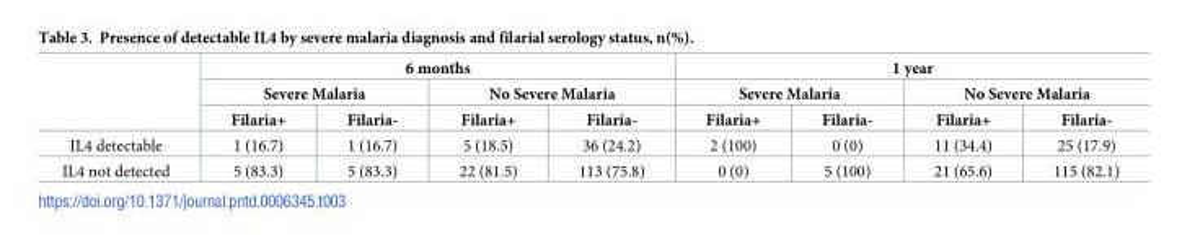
<table><thead><tr><td rowspan="3"></td><td colspan="4">6 months</td><td colspan="4">1 year</td></tr><tr><td colspan="2">Severe Malaria</td><td colspan="2">No Severe Malaria</td><td colspan="2">Severe Malaria</td><td colspan="2">No Severe Malaria</td></tr><tr><td>Filaria+</td><td>Filaria-</td><td>Filaria+</td><td>Filaria-</td><td>Filaria+</td><td>Filaria-</td><td>Filaria+</td><td>Filaria-</td></tr></thead><tbody><tr><td>IL4 detectable</td><td>1 (16.7)</td><td>1 (16.7)</td><td>5 (18.5)</td><td>36 (24.2)</td><td>2 (100)</td><td>0 (0)</td><td>11 (34.4)</td><td>25 (17.9)</td></tr><tr><td>IL4 not detected</td><td>5 (83.3)</td><td>5 (83.3)</td><td>22 (81.5)</td><td>113 (75.8)</td><td>0 (0)</td><td>5 (100)</td><td>21 (65.6)</td><td>115 (82.1)</td></tr></tbody></table>